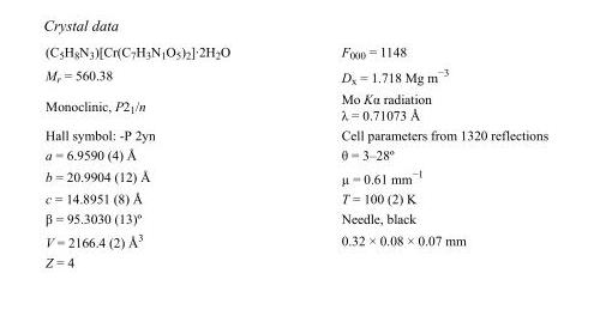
<table><tbody><tr><td>(C<sub>5</sub>H<sub>8</sub>N<sub>3</sub>)[Cr(C<sub>7</sub>H<sub>3</sub>N<sub>1</sub>O<sub>5</sub>)<sub>2</sub>]·2H<sub>2</sub>O</td><td>F<sub>000</sub> = 1148</td></tr><tr><td>M<sub>r</sub> = 560.38</td><td>D<sub>x</sub> = 1.718 Mg m<sup>−3</sup></td></tr><tr><td>Monoclinic, P2<sub>1</sub>/n</td><td>Mo Kα radiation λ = 0.71073 Å</td></tr><tr><td>Hall symbol: -P 2yn</td><td>Cell parameters from 1320 reflections</td></tr><tr><td>a = 6.9590 (4) Å</td><td>θ = 3–28º</td></tr><tr><td>b = 20.9904 (12) Å</td><td>µ = 0.61 mm<sup>−1</sup></td></tr><tr><td>c = 14.8951 (8) Å</td><td>T = 100 (2) K</td></tr><tr><td>β = 95.3030 (13)º</td><td>Needle, black</td></tr><tr><td>V = 2166.4 (2) Å<sup>3</sup></td><td>0.32 × 0.08 × 0.07 mm</td></tr><tr><td>Z = 4</td><td></td></tr></tbody></table>